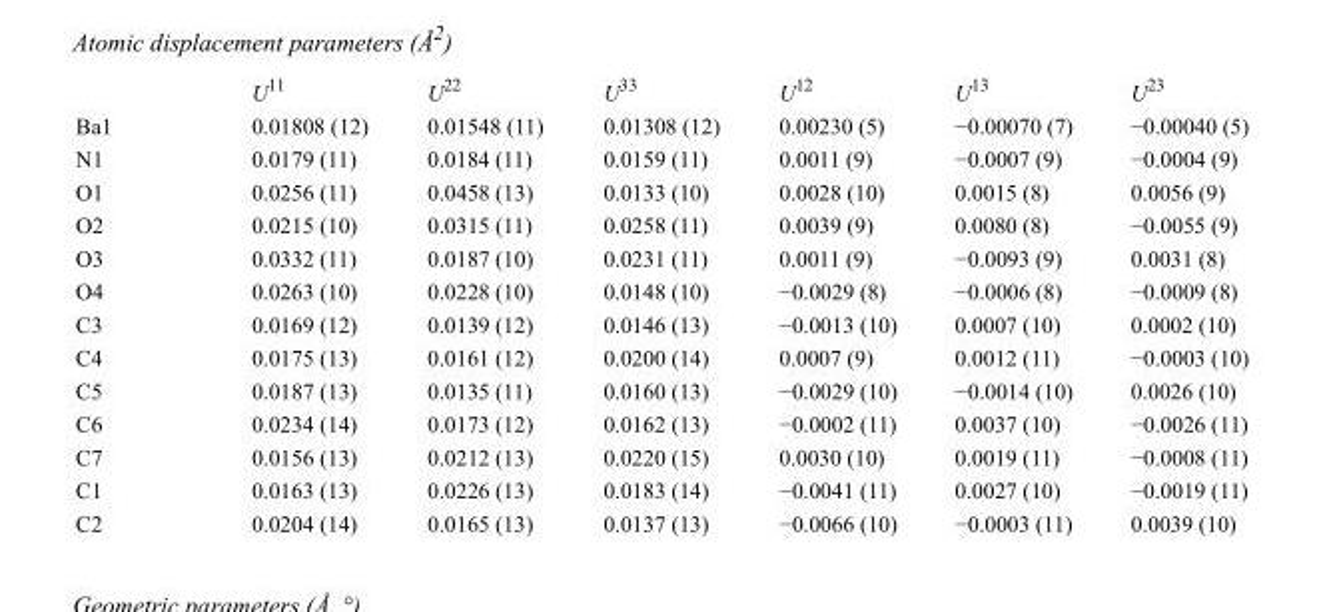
<table><thead><tr><td></td><td>U<sup>11</sup></td><td>U<sup>22</sup></td><td>U<sup>33</sup></td><td>U<sup>12</sup></td><td>U<sup>13</sup></td><td>U<sup>23</sup></td></tr></thead><tbody><tr><td>Ba1</td><td>0.01808 (12)</td><td>0.01548 (11)</td><td>0.01308 (12)</td><td>0.00230 (5)</td><td>−0.00070 (7)</td><td>−0.00040 (5)</td></tr><tr><td>N1</td><td>0.0179 (11)</td><td>0.0184 (11)</td><td>0.0159 (11)</td><td>0.0011 (9)</td><td>−0.0007 (9)</td><td>−0.0004 (9)</td></tr><tr><td>O1</td><td>0.0256 (11)</td><td>0.0458 (13)</td><td>0.0133 (10)</td><td>0.0028 (10)</td><td>0.0015 (8)</td><td>0.0056 (9)</td></tr><tr><td>O2</td><td>0.0215 (10)</td><td>0.0315 (11)</td><td>0.0258 (11)</td><td>0.0039 (9)</td><td>0.0080 (8)</td><td>−0.0055 (9)</td></tr><tr><td>O3</td><td>0.0332 (11)</td><td>0.0187 (10)</td><td>0.0231 (11)</td><td>0.0011 (9)</td><td>−0.0093 (9)</td><td>0.0031 (8)</td></tr><tr><td>O4</td><td>0.0263 (10)</td><td>0.0228 (10)</td><td>0.0148 (10)</td><td>−0.0029 (8)</td><td>−0.0006 (8)</td><td>−0.0009 (8)</td></tr><tr><td>C3</td><td>0.0169 (12)</td><td>0.0139 (12)</td><td>0.0146 (13)</td><td>−0.0013 (10)</td><td>0.0007 (10)</td><td>0.0002 (10)</td></tr><tr><td>C4</td><td>0.0175 (13)</td><td>0.0161 (12)</td><td>0.0200 (14)</td><td>0.0007 (9)</td><td>0.0012 (11)</td><td>−0.0003 (10)</td></tr><tr><td>C5</td><td>0.0187 (13)</td><td>0.0135 (11)</td><td>0.0160 (13)</td><td>−0.0029 (10)</td><td>−0.0014 (10)</td><td>0.0026 (10)</td></tr><tr><td>C6</td><td>0.0234 (14)</td><td>0.0173 (12)</td><td>0.0162 (13)</td><td>−0.0002 (11)</td><td>0.0037 (10)</td><td>−0.0026 (11)</td></tr><tr><td>C7</td><td>0.0156 (13)</td><td>0.0212 (13)</td><td>0.0220 (15)</td><td>0.0030 (10)</td><td>0.0019 (11)</td><td>−0.0008 (11)</td></tr><tr><td>C1</td><td>0.0163 (13)</td><td>0.0226 (13)</td><td>0.0183 (14)</td><td>−0.0041 (11)</td><td>0.0027 (10)</td><td>−0.0019 (11)</td></tr><tr><td>C2</td><td>0.0204 (14)</td><td>0.0165 (13)</td><td>0.0137 (13)</td><td>−0.0066 (10)</td><td>−0.0003 (11)</td><td>0.0039 (10)</td></tr></tbody></table>